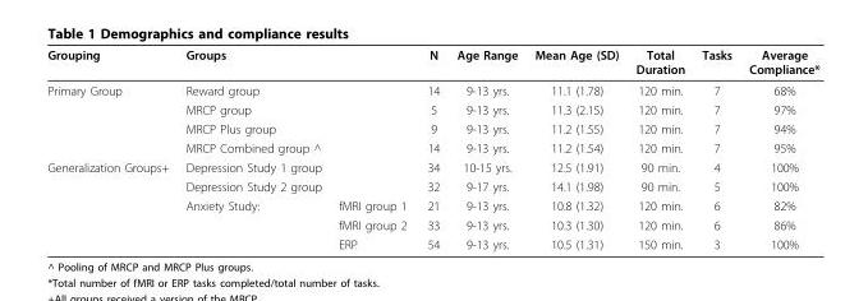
<table><thead><tr><td>Grouping</td><td>Groups</td><td></td><td>N</td><td>Age Range</td><td>Mean Age (SD)</td><td>Total Duration</td><td>Tasks</td><td>Average Compliance*</td></tr></thead><tbody><tr><td rowspan="4">Primary Group</td><td>Reward group</td><td></td><td>14</td><td>9-13 yrs.</td><td>11.1 (1.78)</td><td>120 min.</td><td>7</td><td>68%</td></tr><tr><td>MRCP group</td><td></td><td>5</td><td>9-13 yrs.</td><td>11.3 (2.15)</td><td>120 min.</td><td>7</td><td>97%</td></tr><tr><td>MRCP Plus group</td><td></td><td>9</td><td>9-13 yrs.</td><td>11.2 (1.55)</td><td>120 min.</td><td>7</td><td>94%</td></tr><tr><td>MRCP Combined group ^</td><td></td><td>14</td><td>9-13 yrs.</td><td>11.2 (1.54)</td><td>120 min.</td><td>7</td><td>95%</td></tr><tr><td rowspan="5">Generalization Groups+</td><td>Depression Study 1 group</td><td></td><td>34</td><td>10-15 yrs.</td><td>12.5 (1.91)</td><td>90 min.</td><td>4</td><td>100%</td></tr><tr><td>Depression Study 2 group</td><td></td><td>32</td><td>9-17 yrs.</td><td>14.1 (1.98)</td><td>90 min.</td><td>5</td><td>100%</td></tr><tr><td>Anxiety Study:</td><td>fMRI group 1</td><td>21</td><td>9-13 yrs.</td><td>10.8 (1.32)</td><td>120 min.</td><td>6</td><td>82%</td></tr><tr><td></td><td>fMRI group 2</td><td>33</td><td>9-13 yrs.</td><td>10.3 (1.30)</td><td>120 min.</td><td>6</td><td>86%</td></tr><tr><td></td><td>ERP</td><td>54</td><td>9-13 yrs.</td><td>10.5 (1.31)</td><td>150 min.</td><td>3</td><td>100%</td></tr></tbody></table>